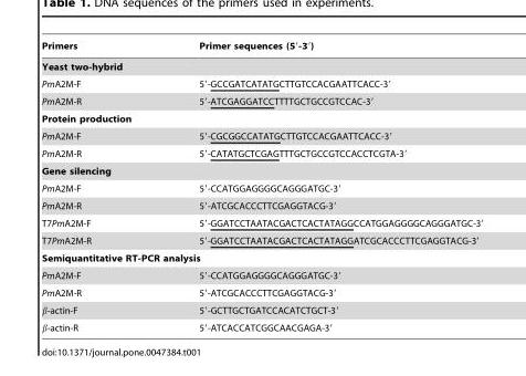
<table><thead><tr><td>Primers</td><td>Primer sequences (5′-3′)</td></tr></thead><tbody><tr><td colspan="2">Yeast two-hybrid</td></tr><tr><td>PmA2M-F</td><td>5′-GCCGATCATATGCTTGTCCACGAATTCACC-3′</td></tr><tr><td>PmA2M-R</td><td>5′-ATCGAGGATCCTTTTGCTGCCGTCCAC-3′</td></tr><tr><td colspan="2">Protein production</td></tr><tr><td>PmA2M-F</td><td>5′-CGCGGCCATATGCTTGTCCACGAATTCACC-3′</td></tr><tr><td>PmA2M-R</td><td>5′-CATATGCTCGAGTTTGCTGCCGTCCACCTCGTA-3′</td></tr><tr><td colspan="2">Gene silencing</td></tr><tr><td>PmA2M-F</td><td>5′-CCATGGAGGGGCAGGGATGC-3′</td></tr><tr><td>PmA2M-R</td><td>5′-ATCGCACCCTTCGAGGTACG-3′</td></tr><tr><td>T7PmA2M-F</td><td>5′-GGATCCTAATACGACTCACTATAGGCCATGGAGGGGCAGGGATGC-3′</td></tr><tr><td>T7PmA2M-R</td><td>5′-GGATCCTAATACGACTCACTATAGGATCGCACCCTTCGAGGTACG-3′</td></tr><tr><td colspan="2">Semiquantitative RT-PCR analysis</td></tr><tr><td>PmA2M-F</td><td>5′-CCATGGAGGGGCAGGGATGC-3′</td></tr><tr><td>PmA2M-R</td><td>5′-ATCGCACCCTTCGAGGTACG-3′</td></tr><tr><td>β-actin-F</td><td>5′-GCTTGCTGATCCACATCTGCT-3′</td></tr><tr><td>β-actin-R</td><td>5′-ATCACCATCGGCAACGAGA-3′</td></tr></tbody></table>